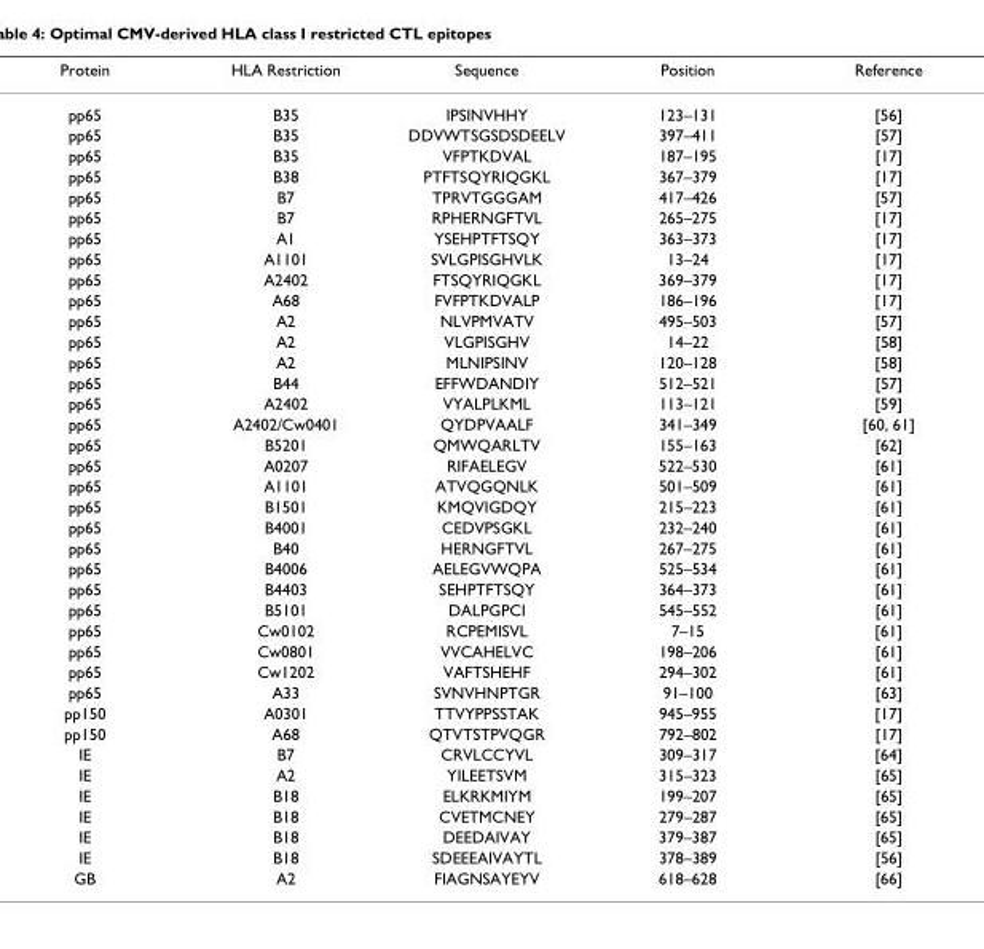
<table><thead><tr><td>Protein</td><td>HLA Restriction</td><td>Sequence</td><td>Position</td><td>Reference</td></tr></thead><tbody><tr><td>pp65</td><td>B35</td><td>IPSINVHHY</td><td>123–131</td><td>[56]</td></tr><tr><td>pp65</td><td>B35</td><td>DDVWTSGSDSDEELV</td><td>397–411</td><td>[57]</td></tr><tr><td>pp65</td><td>B35</td><td>VFPTKDVAL</td><td>187–195</td><td>[17]</td></tr><tr><td>pp65</td><td>B38</td><td>PTFTSQYRIQGKL</td><td>367–379</td><td>[17]</td></tr><tr><td>pp65</td><td>B7</td><td>TPRVTGGGAM</td><td>417–426</td><td>[57]</td></tr><tr><td>pp65</td><td>B7</td><td>RPHERNGFTVL</td><td>265–275</td><td>[17]</td></tr><tr><td>pp65</td><td>A1</td><td>YSEHPTFTSQY</td><td>363–373</td><td>[17]</td></tr><tr><td>pp65</td><td>A1101</td><td>SVLGPISGHVLK</td><td>13–24</td><td>[17]</td></tr><tr><td>pp65</td><td>A2402</td><td>FTSQYRIQGKL</td><td>369–379</td><td>[17]</td></tr><tr><td>pp65</td><td>A68</td><td>FVFPTKDVALP</td><td>186–196</td><td>[17]</td></tr><tr><td>pp65</td><td>A2</td><td>NLVPMVATV</td><td>495–503</td><td>[57]</td></tr><tr><td>pp65</td><td>A2</td><td>VLGPISGHV</td><td>14–22</td><td>[58]</td></tr><tr><td>pp65</td><td>A2</td><td>MLNIPSINV</td><td>120–128</td><td>[58]</td></tr><tr><td>pp65</td><td>B44</td><td>EFFWDANDIY</td><td>512–521</td><td>[57]</td></tr><tr><td>pp65</td><td>A2402</td><td>VYALPLKML</td><td>113–121</td><td>[59]</td></tr><tr><td>pp65</td><td>A2402/Cw0401</td><td>QYDPVAALF</td><td>341–349</td><td>[60, 61]</td></tr><tr><td>pp65</td><td>B5201</td><td>QMWQARLTV</td><td>155–163</td><td>[62]</td></tr><tr><td>pp65</td><td>A0207</td><td>RIFAELEGV</td><td>522–530</td><td>[61]</td></tr><tr><td>pp65</td><td>A1101</td><td>ATVQGQNLK</td><td>501–509</td><td>[61]</td></tr><tr><td>pp65</td><td>B1501</td><td>KMQVIGDQY</td><td>215–223</td><td>[61]</td></tr><tr><td>pp65</td><td>B4001</td><td>CEDVPSGKL</td><td>232–240</td><td>[61]</td></tr><tr><td>pp65</td><td>B40</td><td>HERNGFTVL</td><td>267–275</td><td>[61]</td></tr><tr><td>pp65</td><td>B4006</td><td>AELEGVWQPA</td><td>525–534</td><td>[61]</td></tr><tr><td>pp65</td><td>B4403</td><td>SEHPTFTSQY</td><td>364–373</td><td>[61]</td></tr><tr><td>pp65</td><td>B5101</td><td>DALPGPCI</td><td>545–552</td><td>[61]</td></tr><tr><td>pp65</td><td>Cw0102</td><td>RCPEMISVL</td><td>7–15</td><td>[61]</td></tr><tr><td>pp65</td><td>Cw0801</td><td>VVCAHELVC</td><td>198–206</td><td>[61]</td></tr><tr><td>pp65</td><td>Cw1202</td><td>VAFTSHEHF</td><td>294–302</td><td>[61]</td></tr><tr><td>pp65</td><td>A33</td><td>SVNVHNPTGR</td><td>91–100</td><td>[63]</td></tr><tr><td>pp150</td><td>A0301</td><td>TTVYPPSSTAK</td><td>945–955</td><td>[17]</td></tr><tr><td>pp150</td><td>A68</td><td>QTVTSTPVQGR</td><td>792–802</td><td>[17]</td></tr><tr><td>IE</td><td>B7</td><td>CRVLCCYVL</td><td>309–317</td><td>[64]</td></tr><tr><td>IE</td><td>A2</td><td>YILEETSVM</td><td>315–323</td><td>[65]</td></tr><tr><td>IE</td><td>B18</td><td>ELKRKMIYM</td><td>199–207</td><td>[65]</td></tr><tr><td>IE</td><td>B18</td><td>CVETMCNEY</td><td>279–287</td><td>[65]</td></tr><tr><td>IE</td><td>B18</td><td>DEEDAIVAY</td><td>379–387</td><td>[65]</td></tr><tr><td>IE</td><td>B18</td><td>SDEEEAIVAYTL</td><td>378–389</td><td>[56]</td></tr><tr><td>GB</td><td>A2</td><td>FIAGNSAYEYV</td><td>618–628</td><td>[66]</td></tr></tbody></table>